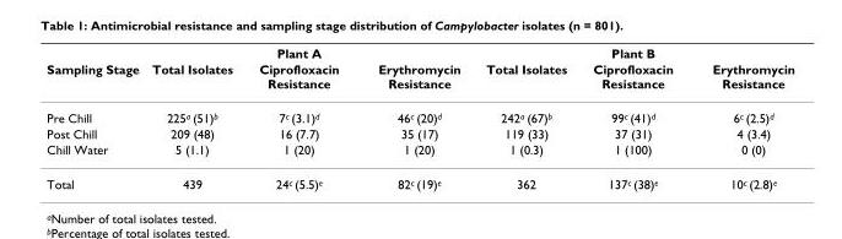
<table><thead><tr><td rowspan="2">Sampling Stage</td><td rowspan="2">Total Isolates</td><td rowspan="2">Plant A Ciprofloxacin Resistance</td><td rowspan="2">Erythromycin Resistance</td><td rowspan="2">Total Isolates</td><td rowspan="2">Plant B Ciprofloxacin Resistance</td><td rowspan="2">Erythromycin Resistance</td></tr><tr></tr></thead><tbody><tr><td>Pre Chill</td><td>225<sup>a</sup> (51)<sup>b</sup></td><td>7<sup>c</sup> (3.1)<sup>d</sup></td><td>46<sup>c</sup> (20)<sup>d</sup></td><td>242<sup>a</sup> (67)<sup>b</sup></td><td>99<sup>c</sup> (41)<sup>d</sup></td><td>6<sup>c</sup> (2.5)<sup>d</sup></td></tr><tr><td>Post Chill</td><td>209 (48)</td><td>16 (7.7)</td><td>35 (17)</td><td>119 (33)</td><td>37 (31)</td><td>4 (3.4)</td></tr><tr><td>Chill Water</td><td>5 (1.1)</td><td>1 (20)</td><td>1 (20)</td><td>1 (0.3)</td><td>1 (100)</td><td>0 (0)</td></tr><tr><td>Total</td><td>439</td><td>24<sup>c</sup> (5.5)<sup>e</sup></td><td>82<sup>c</sup> (19)<sup>e</sup></td><td>362</td><td>137<sup>c</sup> (38)<sup>e</sup></td><td>10<sup>c</sup> (2.8)<sup>e</sup></td></tr></tbody></table>